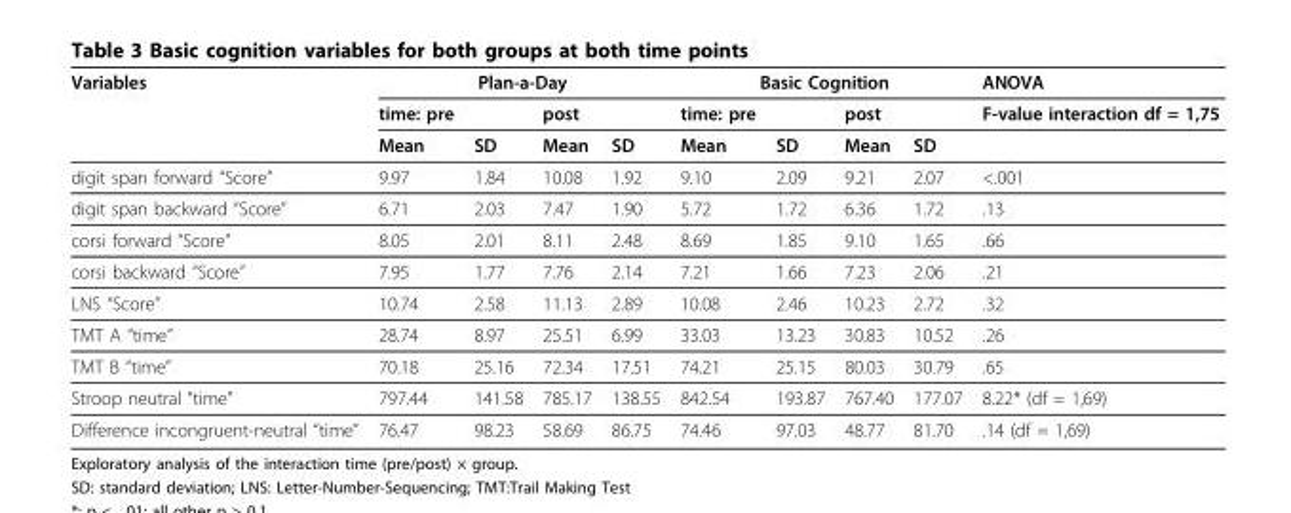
<table><thead><tr><td rowspan="3">Variables</td><td colspan="4">Plan-a-Day</td><td colspan="4">Basic Cognition</td><td rowspan="3">ANOVA F-value interaction df = 1,75</td></tr><tr><td rowspan="2">time: pre Mean</td><td rowspan="2">SD</td><td rowspan="2">post Mean</td><td rowspan="2">SD</td><td rowspan="2">time: pre Mean</td><td rowspan="2">SD</td><td rowspan="2">post Mean</td><td rowspan="2">SD</td></tr><tr></tr></thead><tbody><tr><td>digit span forward “Score”</td><td>9.97</td><td>1.84</td><td>10.08</td><td>1.92</td><td>9.10</td><td>2.09</td><td>9.21</td><td>2.07</td><td>&lt;.001</td></tr><tr><td>digit span backward “Score”</td><td>6.71</td><td>2.03</td><td>7.47</td><td>1.90</td><td>5.72</td><td>1.72</td><td>6.36</td><td>1.72</td><td>.13</td></tr><tr><td>corsi forward “Score”</td><td>8.05</td><td>2.01</td><td>8.11</td><td>2.48</td><td>8.69</td><td>1.85</td><td>9.10</td><td>1.65</td><td>.66</td></tr><tr><td>corsi backward “Score”</td><td>7.95</td><td>1.77</td><td>7.76</td><td>2.14</td><td>7.21</td><td>1.66</td><td>7.23</td><td>2.06</td><td>.21</td></tr><tr><td>LNS “Score”</td><td>10.74</td><td>2.58</td><td>11.13</td><td>2.89</td><td>10.08</td><td>2.46</td><td>10.23</td><td>2.72</td><td>.32</td></tr><tr><td>TMT A “time”</td><td>28.74</td><td>8.97</td><td>25.51</td><td>6.99</td><td>33.03</td><td>13.23</td><td>30.83</td><td>10.52</td><td>.26</td></tr><tr><td>TMT B “time”</td><td>70.18</td><td>25.16</td><td>72.34</td><td>17.51</td><td>74.21</td><td>25.15</td><td>80.03</td><td>30.79</td><td>.65</td></tr><tr><td>Stroop neutral “time”</td><td>797.44</td><td>141.58</td><td>785.17</td><td>138.55</td><td>842.54</td><td>193.87</td><td>767.40</td><td>177.07</td><td>8.22* (df = 1,69)</td></tr><tr><td>Difference incongruent-neutral “time”</td><td>76.47</td><td>98.23</td><td>58.69</td><td>86.75</td><td>74.46</td><td>97.03</td><td>48.77</td><td>81.70</td><td>.14 (df = 1,69)</td></tr></tbody></table>